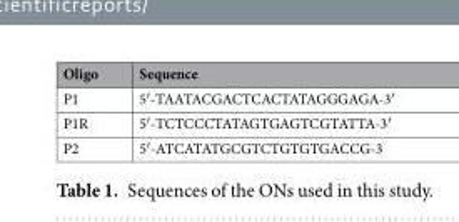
<table><thead><tr><td>Oligo</td><td>Sequence</td></tr></thead><tbody><tr><td>P1</td><td>5′-TAATACGACTCACTATAGGGAGA-3′</td></tr><tr><td>P1R</td><td>5′-TCTCCCTATAGTGAGTCGTATTA-3′</td></tr><tr><td>P2</td><td>5′-ATCATATGCGTCTGTGTGACCG-3</td></tr></tbody></table>